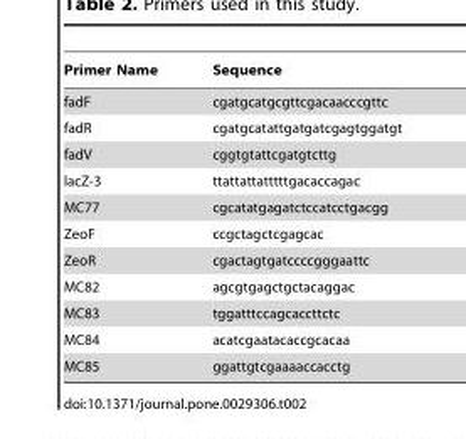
<table><thead><tr><td>Primer Name</td><td>Sequence</td></tr></thead><tbody><tr><td>fadF</td><td>cgatgcatgcgttcgacaacccgttc</td></tr><tr><td>fadR</td><td>cgatgcatattgatgatcgagtggatgt</td></tr><tr><td>fadV</td><td>cggtgtattcgatgtcttg</td></tr><tr><td>lacZ-3</td><td>ttattattatttttgacaccagac</td></tr><tr><td>MC77</td><td>cgcatatgagatctccatcctgacgg</td></tr><tr><td>ZeoF</td><td>ccgctagctcgagcac</td></tr><tr><td>ZeoR</td><td>cgactagtgatccccgggaattc</td></tr><tr><td>MC82</td><td>agcgtgagctgctacaggac</td></tr><tr><td>MC83</td><td>tggatttccagcaccttctc</td></tr><tr><td>MC84</td><td>acatcgaatacaccgcacaa</td></tr><tr><td>MC85</td><td>ggattgtcgaaaaccacctg</td></tr></tbody></table>